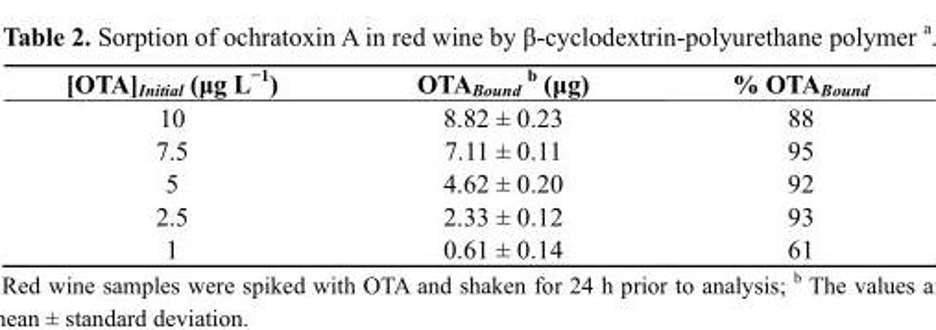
<table><thead><tr><td>[OTA]<sub>Initial</sub> (μg L<sup>−1</sup>)</td><td>OTA<sub>Bound</sub> <sup>b</sup> (μg)</td><td>% OTA<sub>Bound</sub></td></tr></thead><tbody><tr><td>10</td><td>8.82 ± 0.23</td><td>88</td></tr><tr><td>7.5</td><td>7.11 ± 0.11</td><td>95</td></tr><tr><td>5</td><td>4.62 ± 0.20</td><td>92</td></tr><tr><td>2.5</td><td>2.33 ± 0.12</td><td>93</td></tr><tr><td>1</td><td>0.61 ± 0.14</td><td>61</td></tr></tbody></table>